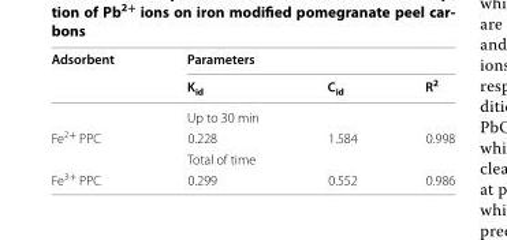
<table><thead><tr><td rowspan="2">Adsorbent</td><td colspan="3">Parameters</td></tr><tr><td>K<sub>id</sub></td><td>C<sub>id</sub></td><td>R<sup>2</sup></td></tr></thead><tbody><tr><td></td><td colspan="3">Up to 30 min</td></tr><tr><td rowspan="2">Fe<sup>2+</sup> PPC</td><td>0.228</td><td>1.584</td><td>0.998</td></tr><tr><td colspan="3">Total of time</td></tr><tr><td>Fe<sup>3+</sup> PPC</td><td>0.299</td><td>0.552</td><td>0.986</td></tr></tbody></table>